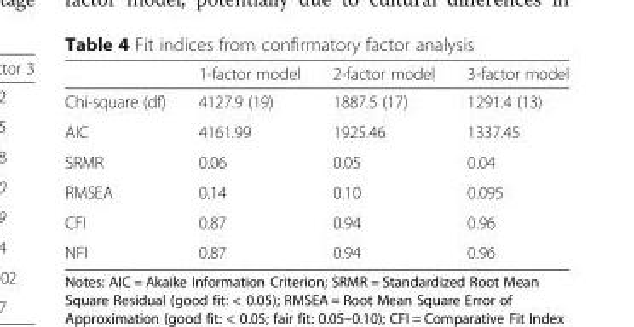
<table><thead><tr><td></td><td>1-factor model</td><td>2-factor model</td><td>3-factor model</td></tr></thead><tbody><tr><td>Chi-square (df)</td><td>4127.9 (19)</td><td>1887.5 (17)</td><td>1291.4 (13)</td></tr><tr><td>AIC</td><td>4161.99</td><td>1925.46</td><td>1337.45</td></tr><tr><td>SRMR</td><td>0.06</td><td>0.05</td><td>0.04</td></tr><tr><td>RMSEA</td><td>0.14</td><td>0.10</td><td>0.095</td></tr><tr><td>CFI</td><td>0.87</td><td>0.94</td><td>0.96</td></tr><tr><td>NFI</td><td>0.87</td><td>0.94</td><td>0.96</td></tr></tbody></table>